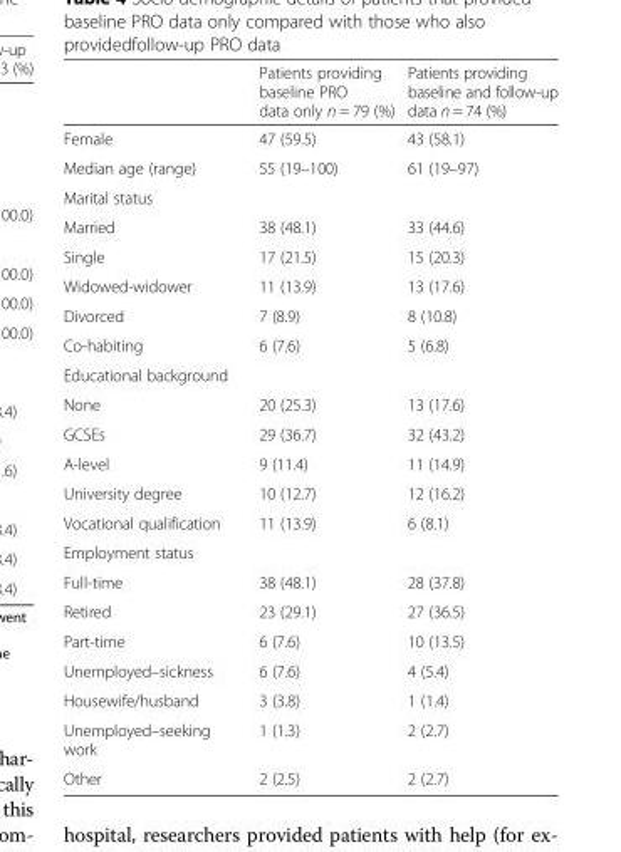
<table><thead><tr><td></td><td>Patients providing baseline PRO data only n = 79 (%)</td><td>Patients providing baseline and follow-up data n = 74 (%)</td></tr></thead><tbody><tr><td>Female</td><td>47 (59.5)</td><td>43 (58.1)</td></tr><tr><td>Median age (range)</td><td>55 (19–100)</td><td>61 (19–97)</td></tr><tr><td colspan="3">Marital status</td></tr><tr><td>Married</td><td>38 (48.1)</td><td>33 (44.6)</td></tr><tr><td>Single</td><td>17 (21.5)</td><td>15 (20.3)</td></tr><tr><td>Widowed-widower</td><td>11 (13.9)</td><td>13 (17.6)</td></tr><tr><td>Divorced</td><td>7 (8.9)</td><td>8 (10.8)</td></tr><tr><td>Co-habiting</td><td>6 (7.6)</td><td>5 (6.8)</td></tr><tr><td colspan="3">Educational background</td></tr><tr><td>None</td><td>20 (25.3)</td><td>13 (17.6)</td></tr><tr><td>GCSEs</td><td>29 (36.7)</td><td>32 (43.2)</td></tr><tr><td>A-level</td><td>9 (11.4)</td><td>11 (14.9)</td></tr><tr><td>University degree</td><td>10 (12.7)</td><td>12 (16.2)</td></tr><tr><td>Vocational qualification</td><td>11 (13.9)</td><td>6 (8.1)</td></tr><tr><td colspan="3">Employment status</td></tr><tr><td>Full-time</td><td>38 (48.1)</td><td>28 (37.8)</td></tr><tr><td>Retired</td><td>23 (29.1)</td><td>27 (36.5)</td></tr><tr><td>Part-time</td><td>6 (7.6)</td><td>10 (13.5)</td></tr><tr><td>Unemployed–sickness</td><td>6 (7.6)</td><td>4 (5.4)</td></tr><tr><td>Housewife/husband</td><td>3 (3.8)</td><td>1 (1.4)</td></tr><tr><td>Unemployed–seeking work</td><td>1 (1.3)</td><td>2 (2.7)</td></tr><tr><td>Other</td><td>2 (2.5)</td><td>2 (2.7)</td></tr></tbody></table>